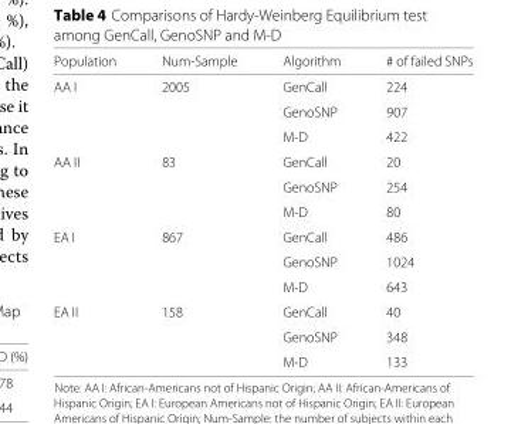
<table><thead><tr><td>Population</td><td>Num-Sample</td><td>Algorithm</td><td># of failed SNPs</td></tr></thead><tbody><tr><td rowspan="3">AA I</td><td>2005</td><td>GenCall</td><td>224</td></tr><tr><td></td><td>GenoSNP</td><td>907</td></tr><tr><td></td><td>M-D</td><td>422</td></tr><tr><td rowspan="3">AA II</td><td>83</td><td>GenCall</td><td>20</td></tr><tr><td></td><td>GenoSNP</td><td>254</td></tr><tr><td></td><td>M-D</td><td>80</td></tr><tr><td rowspan="3">EA I</td><td>867</td><td>GenCall</td><td>486</td></tr><tr><td></td><td>GenoSNP</td><td>1024</td></tr><tr><td></td><td>M-D</td><td>643</td></tr><tr><td rowspan="3">EA II</td><td>158</td><td>GenCall</td><td>40</td></tr><tr><td></td><td>GenoSNP</td><td>348</td></tr><tr><td></td><td>M-D</td><td>133</td></tr></tbody></table>